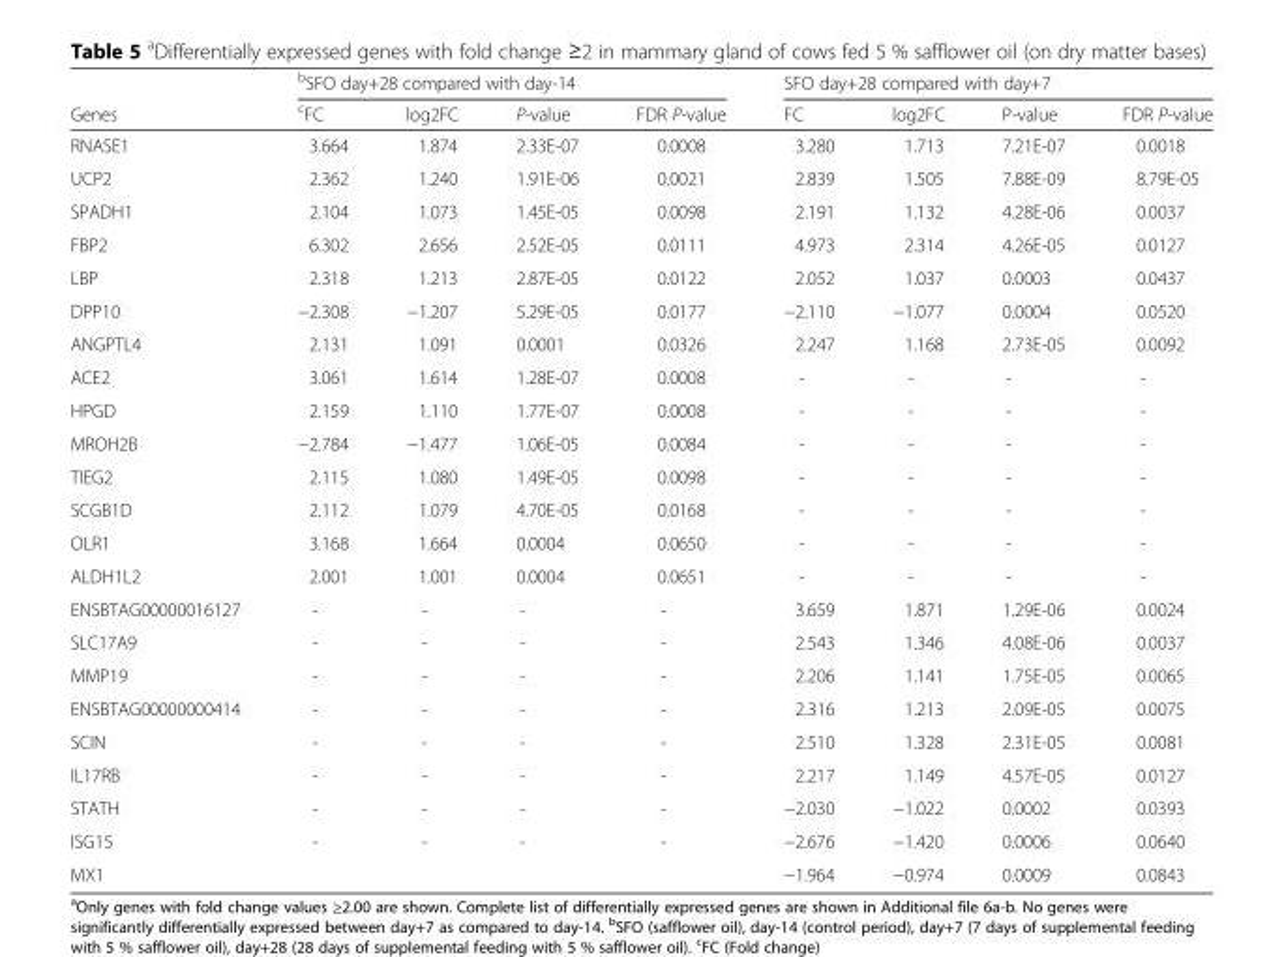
<table><thead><tr><td rowspan="2">Genes</td><td colspan="4"><sup>b</sup>SFO day+28 compared with day-14</td><td colspan="4">SFO day+28 compared with day+7</td></tr><tr><td><sup>c</sup>FC</td><td>log2FC</td><td>P-value</td><td>FDR P-value</td><td>FC</td><td>log2FC</td><td>P-value</td><td>FDR P-value</td></tr></thead><tbody><tr><td>RNASE1</td><td>3.664</td><td>1.874</td><td>2.33E-07</td><td>0.0008</td><td>3.280</td><td>1.713</td><td>7.21E-07</td><td>0.0018</td></tr><tr><td>UCP2</td><td>2.362</td><td>1.240</td><td>1.91E-06</td><td>0.0021</td><td>2.839</td><td>1.505</td><td>7.88E-09</td><td>8.79E-05</td></tr><tr><td>SPADH1</td><td>2.104</td><td>1.073</td><td>1.45E-05</td><td>0.0098</td><td>2.191</td><td>1.132</td><td>4.28E-06</td><td>0.0037</td></tr><tr><td>FBP2</td><td>6.302</td><td>2.656</td><td>2.52E-05</td><td>0.0111</td><td>4.973</td><td>2.314</td><td>4.26E-05</td><td>0.0127</td></tr><tr><td>LBP</td><td>2.318</td><td>1.213</td><td>2.87E-05</td><td>0.0122</td><td>2.052</td><td>1.037</td><td>0.0003</td><td>0.0437</td></tr><tr><td>DPP10</td><td>−2.308</td><td>−1.207</td><td>5.29E-05</td><td>0.0177</td><td>−2.110</td><td>−1.077</td><td>0.0004</td><td>0.0520</td></tr><tr><td>ANGPTL4</td><td>2.131</td><td>1.091</td><td>0.0001</td><td>0.0326</td><td>2.247</td><td>1.168</td><td>2.73E-05</td><td>0.0092</td></tr><tr><td>ACE2</td><td>3.061</td><td>1.614</td><td>1.28E-07</td><td>0.0008</td><td>-</td><td>-</td><td>-</td><td>-</td></tr><tr><td>HPGD</td><td>2.159</td><td>1.110</td><td>1.77E-07</td><td>0.0008</td><td>-</td><td>-</td><td>-</td><td>-</td></tr><tr><td>MROH2B</td><td>−2.784</td><td>−1.477</td><td>1.06E-05</td><td>0.0084</td><td>-</td><td>-</td><td>-</td><td>-</td></tr><tr><td>TIEG2</td><td>2.115</td><td>1.080</td><td>1.49E-05</td><td>0.0098</td><td>-</td><td>-</td><td>-</td><td>-</td></tr><tr><td>SCGB1D</td><td>2.112</td><td>1.079</td><td>4.70E-05</td><td>0.0168</td><td>-</td><td>-</td><td>-</td><td>-</td></tr><tr><td>OLR1</td><td>3.168</td><td>1.664</td><td>0.0004</td><td>0.0650</td><td>-</td><td>-</td><td>-</td><td>-</td></tr><tr><td>ALDH1L2</td><td>2.001</td><td>1.001</td><td>0.0004</td><td>0.0651</td><td>-</td><td>-</td><td>-</td><td>-</td></tr><tr><td>ENSBTAG00000016127</td><td>-</td><td>-</td><td>-</td><td>-</td><td>3.659</td><td>1.871</td><td>1.29E-06</td><td>0.0024</td></tr><tr><td>SLC17A9</td><td>-</td><td>-</td><td>-</td><td>-</td><td>2.543</td><td>1.346</td><td>4.08E-06</td><td>0.0037</td></tr><tr><td>MMP19</td><td>-</td><td>-</td><td>-</td><td>-</td><td>2.206</td><td>1.141</td><td>1.75E-05</td><td>0.0065</td></tr><tr><td>ENSBTAG00000000414</td><td>-</td><td>-</td><td>-</td><td>-</td><td>2.316</td><td>1.213</td><td>2.09E-05</td><td>0.0075</td></tr><tr><td>SCIN</td><td>-</td><td>-</td><td>-</td><td>-</td><td>2.510</td><td>1.328</td><td>2.31E-05</td><td>0.0081</td></tr><tr><td>IL17RB</td><td>-</td><td>-</td><td>-</td><td>-</td><td>2.217</td><td>1.149</td><td>4.57E-05</td><td>0.0127</td></tr><tr><td>STATH</td><td>-</td><td>-</td><td>-</td><td>-</td><td>−2.030</td><td>−1.022</td><td>0.0002</td><td>0.0393</td></tr><tr><td>ISG15</td><td>-</td><td>-</td><td>-</td><td>-</td><td>−2.676</td><td>−1.420</td><td>0.0006</td><td>0.0640</td></tr><tr><td>MX1</td><td></td><td></td><td></td><td></td><td>−1.964</td><td>−0.974</td><td>0.0009</td><td>0.0843</td></tr></tbody></table>